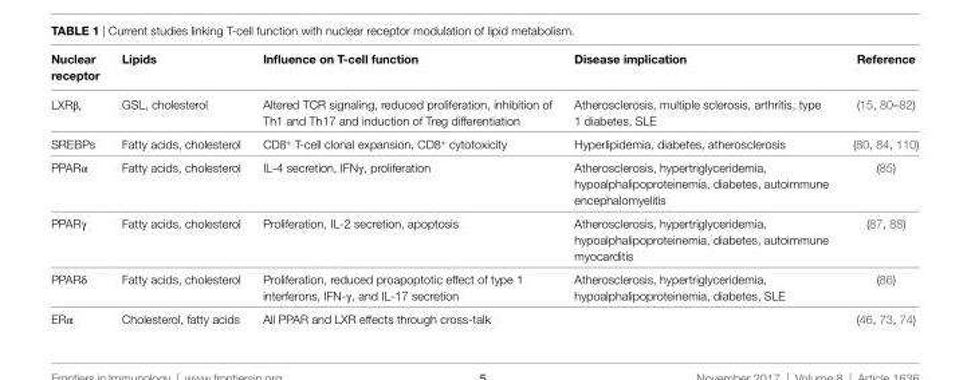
<table><thead><tr><td>nuclear receptor</td><td>Lipids</td><td>influence on T-cell function</td><td>Disease implication</td><td>Reference</td></tr></thead><tbody><tr><td>LXRβ,</td><td>GSL, cholesterol</td><td>Altered TCR signaling, reduced proliferation, inhibition of Th1 and Th17 and induction of Treg differentiation</td><td>Atherosclerosis, multiple sclerosis, arthritis, type 1 diabetes, SLE</td><td>(15, 80–82)</td></tr><tr><td>SREBPs</td><td>Fatty acids, cholesterol</td><td>CD8<sup>+</sup> T-cell clonal expansion, CD8<sup>+</sup> cytotoxicity</td><td>Hyperlipidemia, diabetes, atherosclerosis</td><td>(80, 84, 110)</td></tr><tr><td>PPARα</td><td>Fatty acids, cholesterol</td><td>IL-4 secretion, IFNγ, proliferation</td><td>Atherosclerosis, hypertriglyceridemia, hypoalphalipoproteinemia, diabetes, autoimmune encephalomyelitis</td><td>(85)</td></tr><tr><td>PPARγ</td><td>Fatty acids, cholesterol</td><td>Proliferation, IL-2 secretion, apoptosis</td><td>Atherosclerosis, hypertriglyceridemia, hypoalphalipoproteinemia, diabetes, autoimmune myocarditis</td><td>(87, 88)</td></tr><tr><td>PPARδ</td><td>Fatty acids, cholesterol</td><td>Proliferation, reduced proapoptotic effect of type 1 interferons, IFN-γ, and IL-17 secretion</td><td>Atherosclerosis, hypertriglyceridemia, hypoalphalipoproteinemia, diabetes, SLE</td><td>(86)</td></tr><tr><td>ERα</td><td>Cholesterol, fatty acids</td><td>All PPAR and LXR effects through cross-talk</td><td></td><td>(46, 73, 74)</td></tr></tbody></table>